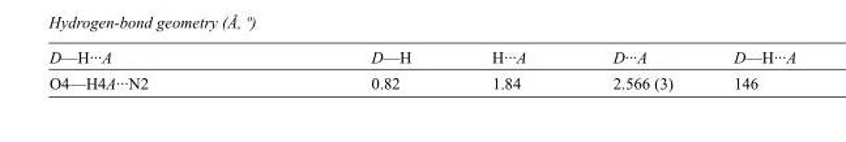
<table><tbody><tr><td>D—H···A</td><td>D—H</td><td>H···A</td><td>D···A</td><td>D—H···A</td></tr><tr><td>O4—H4A···N2</td><td>0.82</td><td>1.84</td><td>2.566 (3)</td><td>146</td></tr></tbody></table>